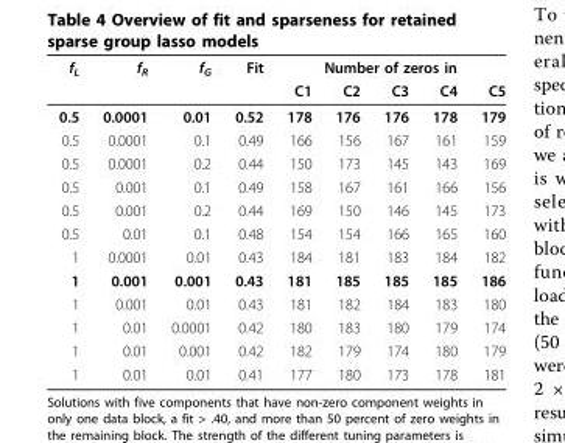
<table><thead><tr><td rowspan="2">f<sub>L</sub></td><td rowspan="2">f<sub>R</sub></td><td rowspan="2">f<sub>G</sub></td><td rowspan="2">Fit</td><td colspan="5">Number of zeros in</td></tr><tr><td>C1</td><td>C2</td><td>C3</td><td>C4</td><td>C5</td></tr></thead><tbody><tr><td>0.5</td><td>0.0001</td><td>0.01</td><td>0.52</td><td>178</td><td>176</td><td>176</td><td>178</td><td>179</td></tr><tr><td>0.5</td><td>0.0001</td><td>0.1</td><td>0.49</td><td>166</td><td>156</td><td>167</td><td>161</td><td>159</td></tr><tr><td>0.5</td><td>0.0001</td><td>0.2</td><td>0.44</td><td>150</td><td>173</td><td>145</td><td>143</td><td>169</td></tr><tr><td>0.5</td><td>0.001</td><td>0.1</td><td>0.49</td><td>158</td><td>167</td><td>161</td><td>166</td><td>156</td></tr><tr><td>0.5</td><td>0.001</td><td>0.2</td><td>0.44</td><td>169</td><td>150</td><td>146</td><td>145</td><td>173</td></tr><tr><td>0.5</td><td>0.01</td><td>0.1</td><td>0.48</td><td>154</td><td>154</td><td>166</td><td>165</td><td>160</td></tr><tr><td>1</td><td>0.0001</td><td>0.01</td><td>0.43</td><td>184</td><td>181</td><td>183</td><td>184</td><td>182</td></tr><tr><td>1</td><td>0.001</td><td>0.001</td><td>0.43</td><td>181</td><td>185</td><td>185</td><td>185</td><td>186</td></tr><tr><td>1</td><td>0.001</td><td>0.01</td><td>0.43</td><td>181</td><td>182</td><td>184</td><td>183</td><td>180</td></tr><tr><td>1</td><td>0.01</td><td>0.0001</td><td>0.42</td><td>180</td><td>183</td><td>180</td><td>179</td><td>174</td></tr><tr><td>1</td><td>0.01</td><td>0.001</td><td>0.42</td><td>182</td><td>179</td><td>174</td><td>180</td><td>179</td></tr><tr><td>1</td><td>0.01</td><td>0.01</td><td>0.41</td><td>177</td><td>180</td><td>173</td><td>178</td><td>181</td></tr></tbody></table>